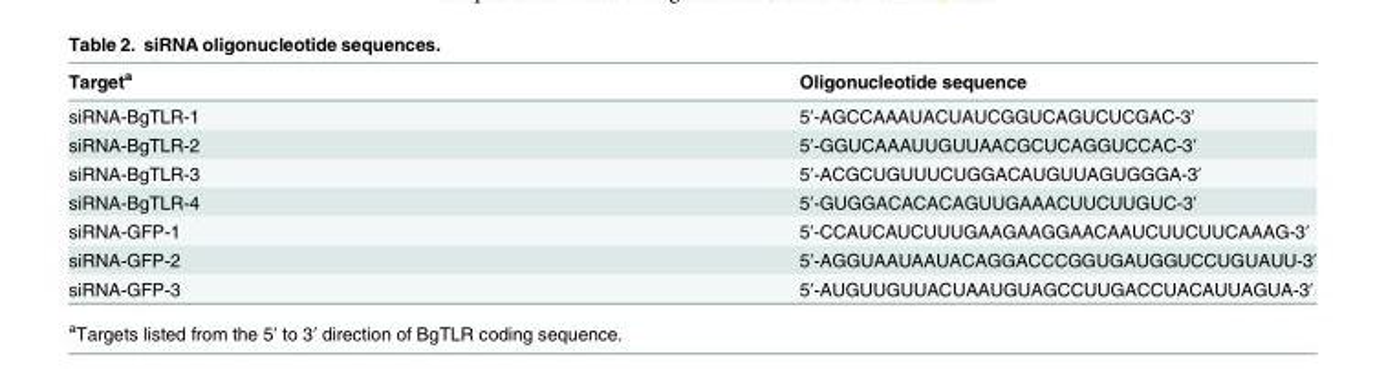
<table><thead><tr><td>Target<sup>a</sup></td><td>Oligonucleotide sequence</td></tr></thead><tbody><tr><td>siRNA-BgTLR-1</td><td>5ʹ-AGCCAAAUACUAUCGGUCAGUCUCGAC-3ʹ</td></tr><tr><td>siRNA-BgTLR-2</td><td>5ʹ-GGUCAAAUUGUUAACGCUCAGGUCCAC-3ʹ</td></tr><tr><td>siRNA-BgTLR-3</td><td>5ʹ-ACGCUGUUUCUGGACAUGUUAGUGGGA-3ʹ</td></tr><tr><td>siRNA-BgTLR-4</td><td>5ʹ-GUGGACACACAGUUGAAACUUCUUGUC-3ʹ</td></tr><tr><td>siRNA-GFP-1</td><td>5ʹ-CCAUCAUCUUUGAAGAAGGAACAAUCUUCUUCAAAG-3ʹ</td></tr><tr><td>siRNA-GFP-2</td><td>5ʹ-AGGUAAUAAUACAGGACCCGGUGAUGGUCCUGUAUU-3ʹ</td></tr><tr><td>siRNA-GFP-3</td><td>5ʹ-AUGUUGUUACUAAUGUAGCCUUGACCUACAUUAGUA-3ʹ</td></tr></tbody></table>